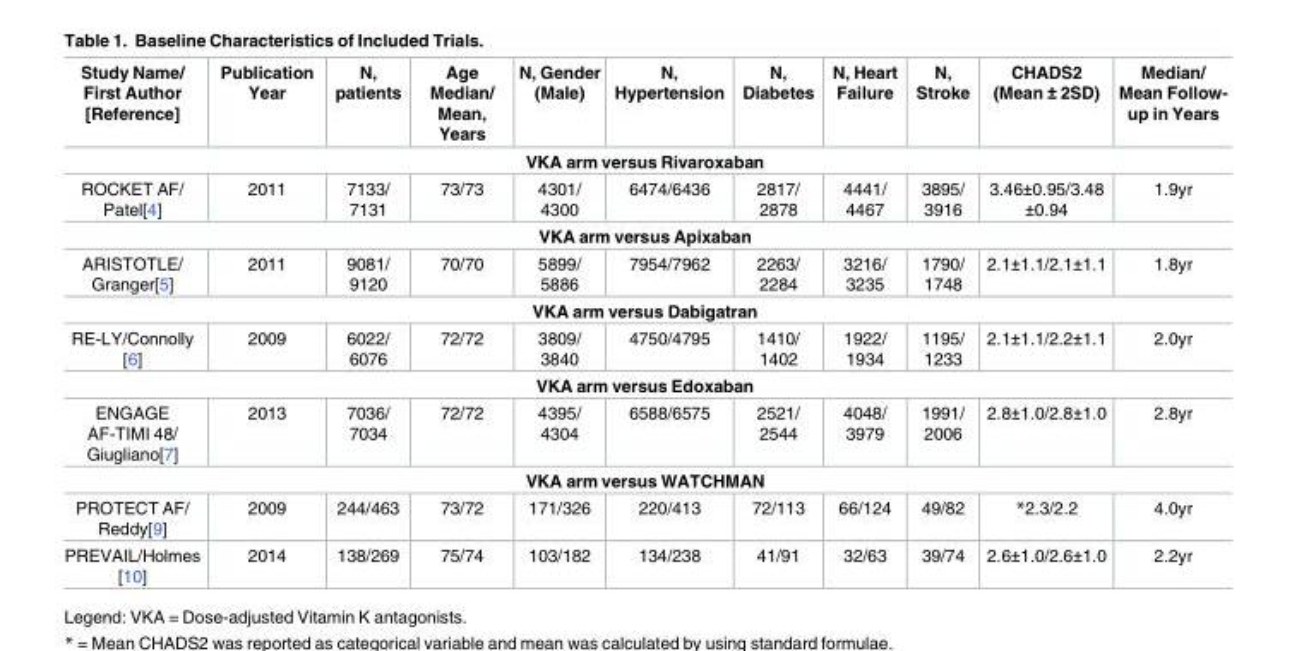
<table><thead><tr><td>Study Name/ First Author [Reference]</td><td>Publication Year</td><td>N, patients</td><td>Age Median/ Mean, Years</td><td>N, Gender (Male)</td><td>N, Hypertension</td><td>N, Diabetes</td><td>N, Heart Failure</td><td>N, Stroke</td><td>CHADS2 (Mean ± 2SD)</td><td>Median/ Mean Follow- up in Years</td></tr></thead><tbody><tr><td colspan="11">VKA arm versus Rivaroxaban</td></tr><tr><td>ROCKET AF/ Patel[4]</td><td>2011</td><td>7133/ 7131</td><td>73/73</td><td>4301/ 4300</td><td>6474/6436</td><td>2817/ 2878</td><td>4441/ 4467</td><td>3895/ 3916</td><td>3.46±0.95/3.48 ±0.94</td><td>1.9yr</td></tr><tr><td colspan="11">VKA arm versus Apixaban</td></tr><tr><td>ARISTOTLE/ Granger[5]</td><td>2011</td><td>9081/ 9120</td><td>70/70</td><td>5899/ 5886</td><td>7954/7962</td><td>2263/ 2284</td><td>3216/ 3235</td><td>1790/ 1748</td><td>2.1±1.1/2.1±1.1</td><td>1.8yr</td></tr><tr><td colspan="11">VKA arm versus Dabigatran</td></tr><tr><td>RE-LY/Connolly [6]</td><td>2009</td><td>6022/ 6076</td><td>72/72</td><td>3809/ 3840</td><td>4750/4795</td><td>1410/ 1402</td><td>1922/ 1934</td><td>1195/ 1233</td><td>2.1±1.1/2.2±1.1</td><td>2.0yr</td></tr><tr><td colspan="11">VKA arm versus Edoxaban</td></tr><tr><td>ENGAGE AF-TIMI 48/ Giugliano[7]</td><td>2013</td><td>7036/ 7034</td><td>72/72</td><td>4395/ 4304</td><td>6588/6575</td><td>2521/ 2544</td><td>4048/ 3979</td><td>1991/ 2006</td><td>2.8±1.0/2.8±1.0</td><td>2.8yr</td></tr><tr><td colspan="11">VKA arm versus WATCHMAN</td></tr><tr><td>PROTECT AF/ Reddy[9]</td><td>2009</td><td>244/463</td><td>73/72</td><td>171/326</td><td>220/413</td><td>72/113</td><td>66/124</td><td>49/82</td><td>*2.3/2.2</td><td>4.0yr</td></tr><tr><td>PREVAIL/Holmes [10]</td><td>2014</td><td>138/269</td><td>75/74</td><td>103/182</td><td>134/238</td><td>41/91</td><td>32/63</td><td>39/74</td><td>2.6±1.0/2.6±1.0</td><td>2.2yr</td></tr></tbody></table>